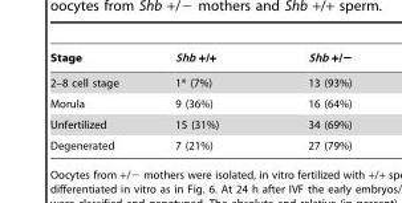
<table><thead><tr><td>Stage</td><td>Shb +/+</td><td>Shb +/−</td></tr></thead><tbody><tr><td>2–8 cell stage</td><td>1* (7%)</td><td>13 (93%)</td></tr><tr><td>Morula</td><td>9 (36%)</td><td>16 (64%)</td></tr><tr><td>Unfertilized</td><td>15 (31%)</td><td>34 (69%)</td></tr><tr><td>Degenerated</td><td>7 (21%)</td><td>27 (79%)</td></tr></tbody></table>